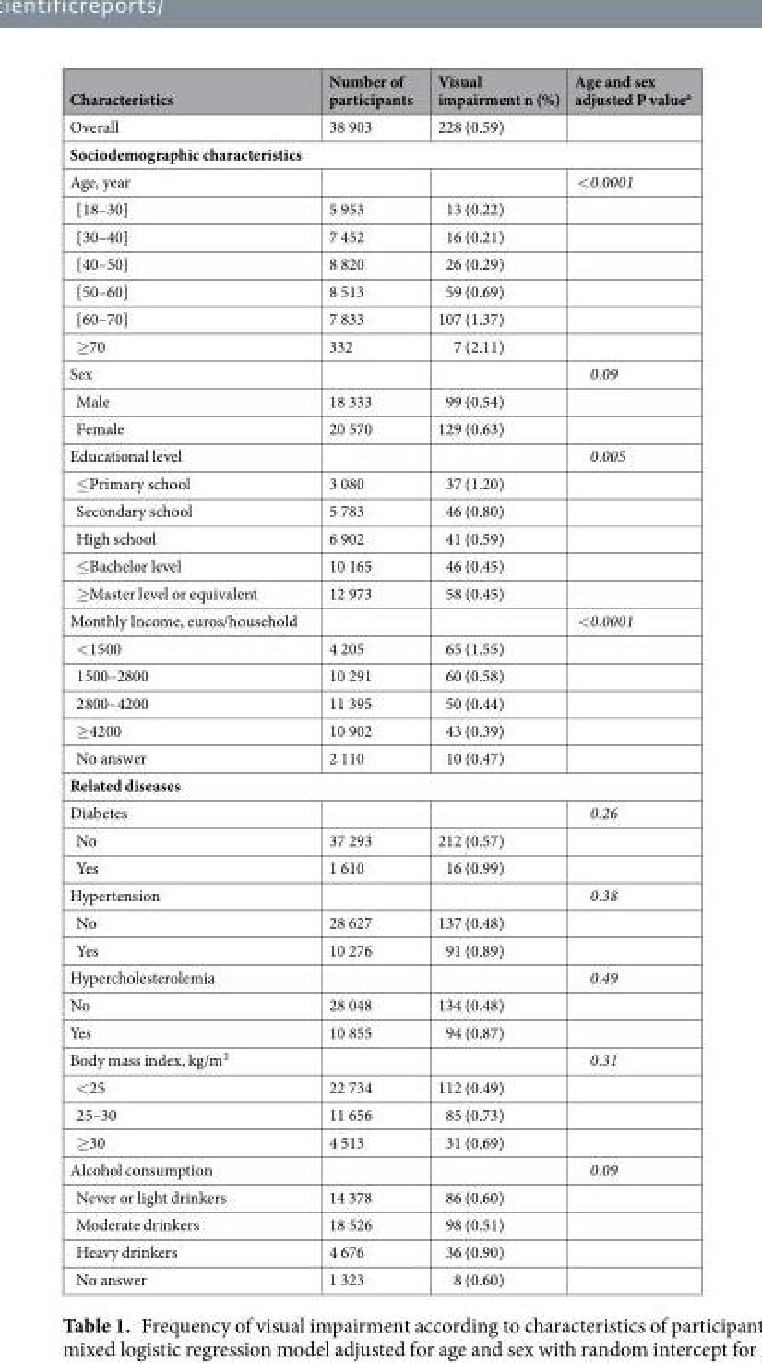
<table><thead><tr><td>Characteristics</td><td>Number of participants</td><td>Visual impairment n (%)</td><td>Age and sex adjusted P value<sup>a</sup></td></tr></thead><tbody><tr><td>Overall</td><td>38 903</td><td>228 (0.59)</td><td></td></tr><tr><td colspan="4">Sociodemographic characteristics</td></tr><tr><td>Age, year</td><td></td><td></td><td>&lt;0.0001</td></tr><tr><td>[18–30]</td><td>5 953</td><td>13 (0.22)</td><td></td></tr><tr><td>[30–40]</td><td>7 452</td><td>16 (0.21)</td><td></td></tr><tr><td>[40–50]</td><td>8 820</td><td>26 (0.29)</td><td></td></tr><tr><td>[50–60]</td><td>8 513</td><td>59 (0.69)</td><td></td></tr><tr><td>[60–70]</td><td>7 833</td><td>107 (1.37)</td><td></td></tr><tr><td>≥70</td><td>332</td><td>7 (2.11)</td><td></td></tr><tr><td>Sex</td><td></td><td></td><td>0.09</td></tr><tr><td>Male</td><td>18 333</td><td>99 (0.54)</td><td></td></tr><tr><td>Female</td><td>20 570</td><td>129 (0.63)</td><td></td></tr><tr><td>Educational level</td><td></td><td></td><td>0.005</td></tr><tr><td>≤Primary school</td><td>3 080</td><td>37 (1.20)</td><td></td></tr><tr><td>Secondary school</td><td>5 783</td><td>46 (0.80)</td><td></td></tr><tr><td>High school</td><td>6 902</td><td>41 (0.59)</td><td></td></tr><tr><td>≤Bachelor level</td><td>10 165</td><td>46 (0.45)</td><td></td></tr><tr><td>≥Master level or equivalent</td><td>12 973</td><td>58 (0.45)</td><td></td></tr><tr><td>Monthly Income, euros/household</td><td></td><td></td><td>&lt;0.0001</td></tr><tr><td>&lt;1500</td><td>4 205</td><td>65 (1.55)</td><td></td></tr><tr><td>1500–2800</td><td>10 291</td><td>60 (0.58)</td><td></td></tr><tr><td>2800–4200</td><td>11 395</td><td>50 (0.44)</td><td></td></tr><tr><td>≥4200</td><td>10 902</td><td>43 (0.39)</td><td></td></tr><tr><td>No answer</td><td>2 110</td><td>10 (0.47)</td><td></td></tr><tr><td colspan="4">Related diseases</td></tr><tr><td>Diabetes</td><td></td><td></td><td>0.26</td></tr><tr><td>No</td><td>37 293</td><td>212 (0.57)</td><td></td></tr><tr><td>Yes</td><td>1 610</td><td>16 (0.99)</td><td></td></tr><tr><td>Hypertension</td><td></td><td></td><td>0.38</td></tr><tr><td>No</td><td>28 627</td><td>137 (0.48)</td><td></td></tr><tr><td>Yes</td><td>10 276</td><td>91 (0.89)</td><td></td></tr><tr><td>Hypercholesterolemia</td><td></td><td></td><td>0.49</td></tr><tr><td>No</td><td>28 048</td><td>134 (0.48)</td><td></td></tr><tr><td>Yes</td><td>10 855</td><td>94 (0.87)</td><td></td></tr><tr><td>Body mass index, kg/m²</td><td></td><td></td><td>0.31</td></tr><tr><td>&lt;25</td><td>22 734</td><td>112 (0.49)</td><td></td></tr><tr><td>25–30</td><td>11 656</td><td>85 (0.73)</td><td></td></tr><tr><td>≥30</td><td>4 513</td><td>31 (0.69)</td><td></td></tr><tr><td>Alcohol consumption</td><td></td><td></td><td>0.09</td></tr><tr><td>Never or light drinkers</td><td>14 378</td><td>86 (0.60)</td><td></td></tr><tr><td>Moderate drinkers</td><td>18 526</td><td>98 (0.51)</td><td></td></tr><tr><td>Heavy drinkers</td><td>4 676</td><td>36 (0.90)</td><td></td></tr><tr><td>No answer</td><td>1 323</td><td>8 (0.60)</td><td></td></tr></tbody></table>